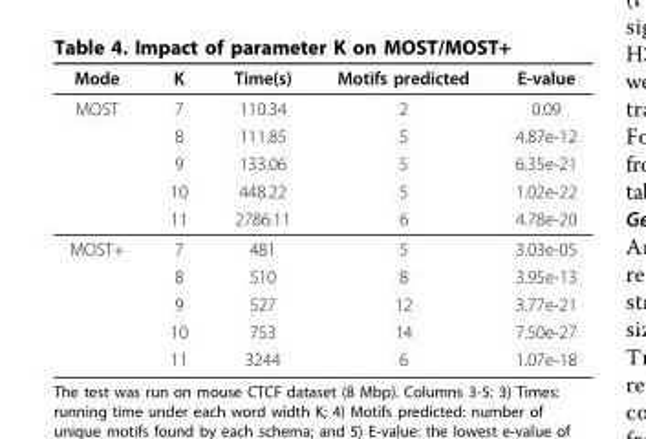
<table><thead><tr><td>Mode</td><td>K</td><td>Time(s)</td><td>Motifs predicted</td><td>E-value</td></tr></thead><tbody><tr><td rowspan="5">MOST</td><td>7</td><td>110.34</td><td>2</td><td>0.09</td></tr><tr><td>8</td><td>111.85</td><td>5</td><td>4.87e-12</td></tr><tr><td>9</td><td>133.06</td><td>5</td><td>6.35e-21</td></tr><tr><td>10</td><td>448.22</td><td>5</td><td>1.02e-22</td></tr><tr><td>11</td><td>2786.11</td><td>6</td><td>4.78e-20</td></tr><tr><td rowspan="5">MOST+</td><td>7</td><td>481</td><td>5</td><td>3.03e-05</td></tr><tr><td>8</td><td>510</td><td>8</td><td>3.95e-13</td></tr><tr><td>9</td><td>527</td><td>12</td><td>3.77e-21</td></tr><tr><td>10</td><td>753</td><td>14</td><td>7.50e-27</td></tr><tr><td>11</td><td>3244</td><td>6</td><td>1.07e-18</td></tr></tbody></table>